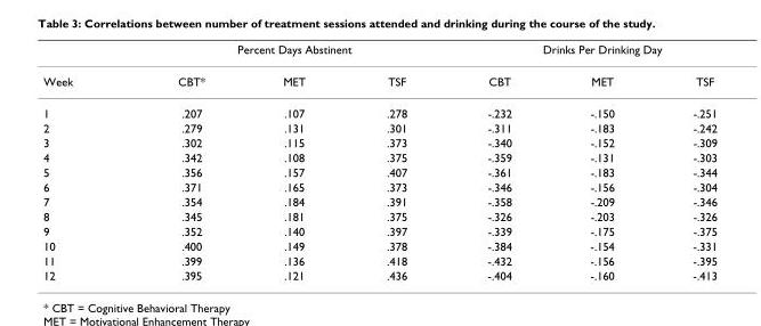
<table><thead><tr><td rowspan="2">Week</td><td colspan="3">Percent Days Abstinent</td><td colspan="3">Drinks Per Drinking Day</td></tr><tr><td>CBT*</td><td>MET</td><td>TSF</td><td>CBT</td><td>MET</td><td>TSF</td></tr></thead><tbody><tr><td>1</td><td>.207</td><td>.107</td><td>.278</td><td>-.232</td><td>-.150</td><td>-.251</td></tr><tr><td>2</td><td>.279</td><td>.131</td><td>.301</td><td>-.311</td><td>-.183</td><td>-.242</td></tr><tr><td>3</td><td>.302</td><td>.115</td><td>.373</td><td>-.340</td><td>-.152</td><td>-.309</td></tr><tr><td>4</td><td>.342</td><td>.108</td><td>.375</td><td>-.359</td><td>-.131</td><td>-.303</td></tr><tr><td>5</td><td>.356</td><td>.157</td><td>.407</td><td>-.361</td><td>-.183</td><td>-.344</td></tr><tr><td>6</td><td>.371</td><td>.165</td><td>.373</td><td>-.346</td><td>-.156</td><td>-.304</td></tr><tr><td>7</td><td>.354</td><td>.184</td><td>.391</td><td>-.358</td><td>-.209</td><td>-.346</td></tr><tr><td>8</td><td>.345</td><td>.181</td><td>.375</td><td>-.326</td><td>-.203</td><td>-.326</td></tr><tr><td>9</td><td>.352</td><td>.140</td><td>.397</td><td>-.339</td><td>-.175</td><td>-.375</td></tr><tr><td>10</td><td>.400</td><td>.149</td><td>.378</td><td>-.384</td><td>-.154</td><td>-.331</td></tr><tr><td>11</td><td>.399</td><td>.136</td><td>.418</td><td>-.432</td><td>-.156</td><td>-.395</td></tr><tr><td>12</td><td>.395</td><td>.121</td><td>.436</td><td>-.404</td><td>-.160</td><td>-.413</td></tr></tbody></table>